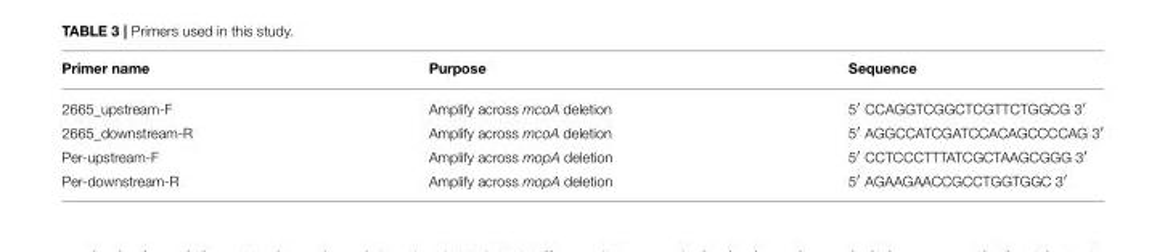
<table><thead><tr><td>Primer name</td><td>Purpose</td><td>Sequence</td></tr></thead><tbody><tr><td>2665_upstream-F</td><td>Amplify across mcoA deletion</td><td>5′ CCAGGTCGGCTCGTTCTGGCG 3′</td></tr><tr><td>2665_downstream-R</td><td>Amplify across mcoA deletion</td><td>5′ AGGCCATCGATCCACAGCCCCAG 3′</td></tr><tr><td>Per-upstream-F</td><td>Amplify across mopA deletion</td><td>5′ CCTCCCTTTATCGCTAAGCGGG 3′</td></tr><tr><td>Per-downstream-R</td><td>Amplify across mopA deletion</td><td>5′ AGAAGAACCGCCTGGTGGC 3′</td></tr></tbody></table>